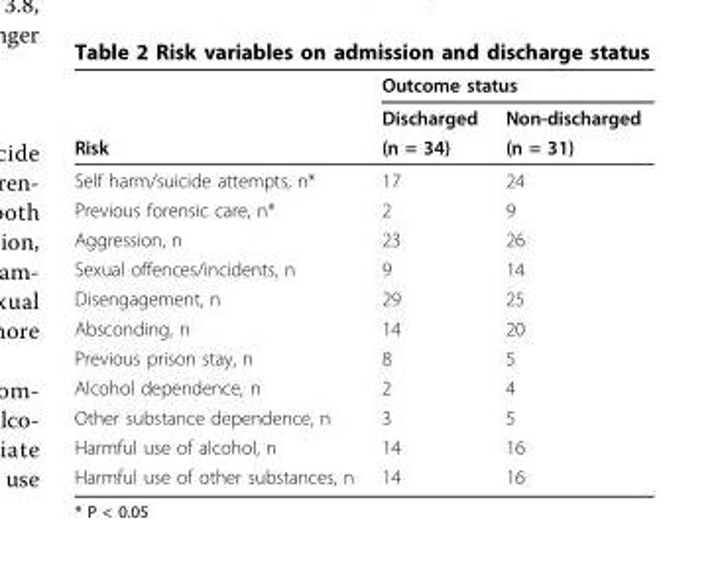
<table><thead><tr><td rowspan="3">Risk</td><td colspan="2">Outcome status</td></tr><tr><td rowspan="2">Discharged (n = 34)</td><td rowspan="2">Non-discharged (n = 31)</td></tr><tr></tr></thead><tbody><tr><td>Self harm/suicide attempts, n*</td><td>17</td><td>24</td></tr><tr><td>Previous forensic care, n*</td><td>2</td><td>9</td></tr><tr><td>Aggression, n</td><td>23</td><td>26</td></tr><tr><td>Sexual offences/incidents, n</td><td>9</td><td>14</td></tr><tr><td>Disengagement, n</td><td>29</td><td>25</td></tr><tr><td>Absconding, n</td><td>14</td><td>20</td></tr><tr><td>Previous prison stay, n</td><td>8</td><td>5</td></tr><tr><td>Alcohol dependence, n</td><td>2</td><td>4</td></tr><tr><td>Other substance dependence, n</td><td>3</td><td>5</td></tr><tr><td>Harmful use of alcohol, n</td><td>14</td><td>16</td></tr><tr><td>Harmful use of other substances, n</td><td>14</td><td>16</td></tr></tbody></table>